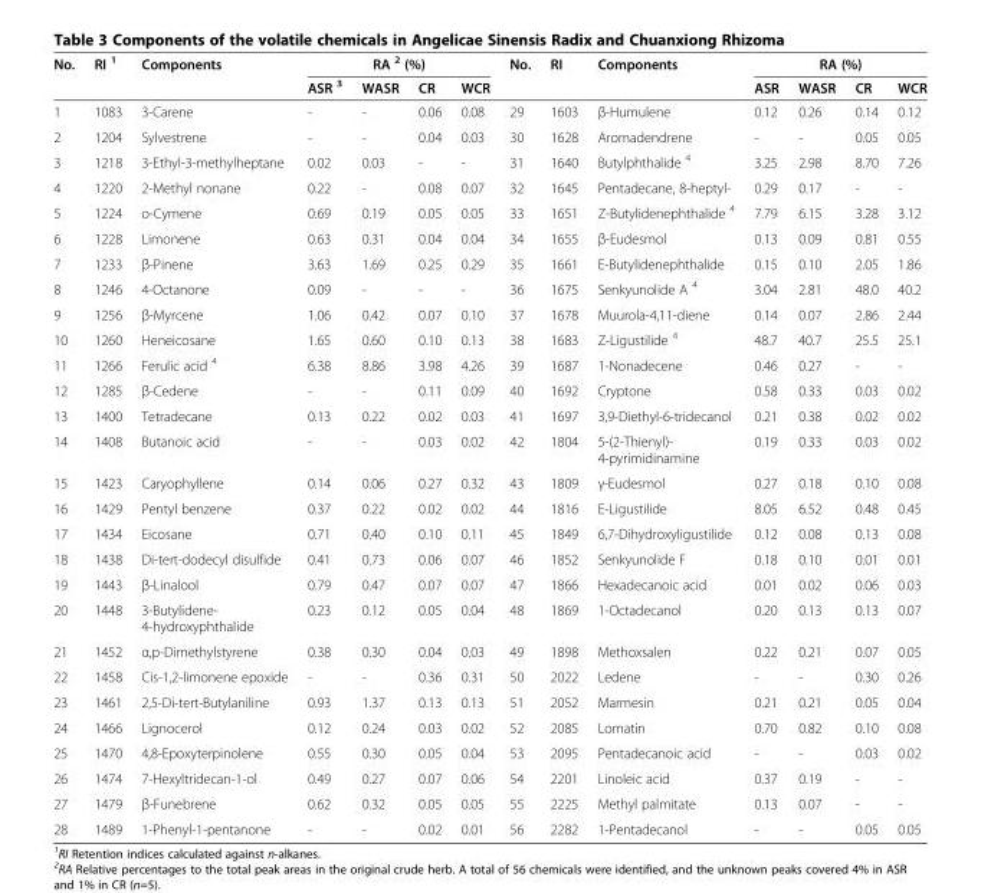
<table><thead><tr><td rowspan="2">No.</td><td rowspan="2">RI <sup>1</sup></td><td rowspan="2">Components</td><td colspan="4">RA <sup>2</sup> (%)</td><td rowspan="2">No.</td><td rowspan="2">RI</td><td rowspan="2">Components</td><td colspan="4">RA (%)</td></tr><tr><td>ASR <sup>3</sup></td><td>WASR</td><td>CR</td><td>WCR</td><td>ASR</td><td>WASR</td><td>CR</td><td>WCR</td></tr></thead><tbody><tr><td>1</td><td>1083</td><td>3-Carene</td><td>-</td><td>-</td><td>0.06</td><td>0.08</td><td>29</td><td>1603</td><td>β-Humulene</td><td>0.12</td><td>0.26</td><td>0.14</td><td>0.12</td></tr><tr><td>2</td><td>1204</td><td>Sylvestrene</td><td>-</td><td>-</td><td>0.04</td><td>0.03</td><td>30</td><td>1628</td><td>Aromadendrene</td><td>-</td><td>-</td><td>0.05</td><td>0.05</td></tr><tr><td>3</td><td>1218</td><td>3-Ethyl-3-methylheptane</td><td>0.02</td><td>0.03</td><td>-</td><td>-</td><td>31</td><td>1640</td><td>Butylphthalide <sup>4</sup></td><td>3.25</td><td>2.98</td><td>8.70</td><td>7.26</td></tr><tr><td>4</td><td>1220</td><td>2-Methyl nonane</td><td>0.22</td><td>-</td><td>0.08</td><td>0.07</td><td>32</td><td>1645</td><td>Pentadecane, 8-heptyl-</td><td>0.29</td><td>0.17</td><td>-</td><td>-</td></tr><tr><td>5</td><td>1224</td><td>o-Cymene</td><td>0.69</td><td>0.19</td><td>0.05</td><td>0.05</td><td>33</td><td>1651</td><td>Z-Butylidenephthalide <sup>4</sup></td><td>7.79</td><td>6.15</td><td>3.28</td><td>3.12</td></tr><tr><td>6</td><td>1228</td><td>Limonene</td><td>0.63</td><td>0.31</td><td>0.04</td><td>0.04</td><td>34</td><td>1655</td><td>β-Eudesmol</td><td>0.13</td><td>0.09</td><td>0.81</td><td>0.55</td></tr><tr><td>7</td><td>1233</td><td>β-Pinene</td><td>3.63</td><td>1.69</td><td>0.25</td><td>0.29</td><td>35</td><td>1661</td><td>E-Butylidenephthalide</td><td>0.15</td><td>0.10</td><td>2.05</td><td>1.86</td></tr><tr><td>8</td><td>1246</td><td>4-Octanone</td><td>0.09</td><td>-</td><td>-</td><td>-</td><td>36</td><td>1675</td><td>Senkyunolide A <sup>4</sup></td><td>3.04</td><td>2.81</td><td>48.0</td><td>40.2</td></tr><tr><td>9</td><td>1256</td><td>β-Myrcene</td><td>1.06</td><td>0.42</td><td>0.07</td><td>0.10</td><td>37</td><td>1678</td><td>Muurola-4,11-diene</td><td>0.14</td><td>0.07</td><td>2.86</td><td>2.44</td></tr><tr><td>10</td><td>1260</td><td>Heneicosane</td><td>1.65</td><td>0.60</td><td>0.10</td><td>0.13</td><td>38</td><td>1683</td><td>Z-Ligustilide <sup>4</sup></td><td>48.7</td><td>40.7</td><td>25.5</td><td>25.1</td></tr><tr><td>11</td><td>1266</td><td>Ferulic acid <sup>4</sup></td><td>6.38</td><td>8.86</td><td>3.98</td><td>4.26</td><td>39</td><td>1687</td><td>1-Nonadecene</td><td>0.46</td><td>0.27</td><td>-</td><td>-</td></tr><tr><td>12</td><td>1285</td><td>β-Cedene</td><td>-</td><td>-</td><td>0.11</td><td>0.09</td><td>40</td><td>1692</td><td>Cryptone</td><td>0.58</td><td>0.33</td><td>0.03</td><td>0.02</td></tr><tr><td>13</td><td>1400</td><td>Tetradecane</td><td>0.13</td><td>0.22</td><td>0.02</td><td>0.03</td><td>41</td><td>1697</td><td>3,9-Diethyl-6-tridecanol</td><td>0.21</td><td>0.38</td><td>0.02</td><td>0.02</td></tr><tr><td>14</td><td>1408</td><td>Butanoic acid</td><td>-</td><td>-</td><td>0.03</td><td>0.02</td><td>42</td><td>1804</td><td>5-(2-Thienyl)- 4-pyrimidinamine</td><td>0.19</td><td>0.33</td><td>0.03</td><td>0.02</td></tr><tr><td>15</td><td>1423</td><td>Caryophyllene</td><td>0.14</td><td>0.06</td><td>0.27</td><td>0.32</td><td>43</td><td>1809</td><td>γ-Eudesmol</td><td>0.27</td><td>0.18</td><td>0.10</td><td>0.08</td></tr><tr><td>16</td><td>1429</td><td>Pentyl benzene</td><td>0.37</td><td>0.22</td><td>0.02</td><td>0.02</td><td>44</td><td>1816</td><td>E-Ligustilide</td><td>8.05</td><td>6.52</td><td>0.48</td><td>0.45</td></tr><tr><td>17</td><td>1434</td><td>Eicosane</td><td>0.71</td><td>0.40</td><td>0.10</td><td>0.11</td><td>45</td><td>1849</td><td>6,7-Dihydroxyligustilide</td><td>0.12</td><td>0.08</td><td>0.13</td><td>0.08</td></tr><tr><td>18</td><td>1438</td><td>Di-tert-dodecyl disulfide</td><td>0.41</td><td>0.73</td><td>0.06</td><td>0.07</td><td>46</td><td>1852</td><td>Senkyunolide F</td><td>0.18</td><td>0.10</td><td>0.01</td><td>0.01</td></tr><tr><td>19</td><td>1443</td><td>β-Linalool</td><td>0.79</td><td>0.47</td><td>0.07</td><td>0.07</td><td>47</td><td>1866</td><td>Hexadecanoic acid</td><td>0.01</td><td>0.02</td><td>0.06</td><td>0.03</td></tr><tr><td>20</td><td>1448</td><td>3-Butylidene- 4-hydroxyphthalide</td><td>0.23</td><td>0.12</td><td>0.05</td><td>0.04</td><td>48</td><td>1869</td><td>1-Octadecanol</td><td>0.20</td><td>0.13</td><td>0.13</td><td>0.07</td></tr><tr><td>21</td><td>1452</td><td>α,p-Dimethylstyrene</td><td>0.38</td><td>0.30</td><td>0.04</td><td>0.03</td><td>49</td><td>1898</td><td>Methoxsalen</td><td>0.22</td><td>0.21</td><td>0.07</td><td>0.05</td></tr><tr><td>22</td><td>1458</td><td>Cis-1,2-limonene epoxide</td><td>-</td><td>-</td><td>0.36</td><td>0.31</td><td>50</td><td>2022</td><td>Ledene</td><td>-</td><td>-</td><td>0.30</td><td>0.26</td></tr><tr><td>23</td><td>1461</td><td>2,5-Di-tert-Butylaniline</td><td>0.93</td><td>1.37</td><td>0.13</td><td>0.13</td><td>51</td><td>2052</td><td>Marmesin</td><td>0.21</td><td>0.21</td><td>0.05</td><td>0.04</td></tr><tr><td>24</td><td>1466</td><td>Lignocerol</td><td>0.12</td><td>0.24</td><td>0.03</td><td>0.02</td><td>52</td><td>2085</td><td>Lomatin</td><td>0.70</td><td>0.82</td><td>0.10</td><td>0.08</td></tr><tr><td>25</td><td>1470</td><td>4,8-Epoxyterpinolene</td><td>0.55</td><td>0.30</td><td>0.05</td><td>0.04</td><td>53</td><td>2095</td><td>Pentadecanoic acid</td><td>-</td><td>-</td><td>0.03</td><td>0.02</td></tr><tr><td>26</td><td>1474</td><td>7-Hexyltridecan-1-ol</td><td>0.49</td><td>0.27</td><td>0.07</td><td>0.06</td><td>54</td><td>2201</td><td>Linoleic acid</td><td>0.37</td><td>0.19</td><td>-</td><td>-</td></tr><tr><td>27</td><td>1479</td><td>β-Funebrene</td><td>0.62</td><td>0.32</td><td>0.05</td><td>0.05</td><td>55</td><td>2225</td><td>Methyl palmitate</td><td>0.13</td><td>0.07</td><td>-</td><td>-</td></tr><tr><td>28</td><td>1489</td><td>1-Phenyl-1-pentanone</td><td>-</td><td>-</td><td>0.02</td><td>0.01</td><td>56</td><td>2282</td><td>1-Pentadecanol</td><td>-</td><td>-</td><td>0.05</td><td>0.05</td></tr></tbody></table>